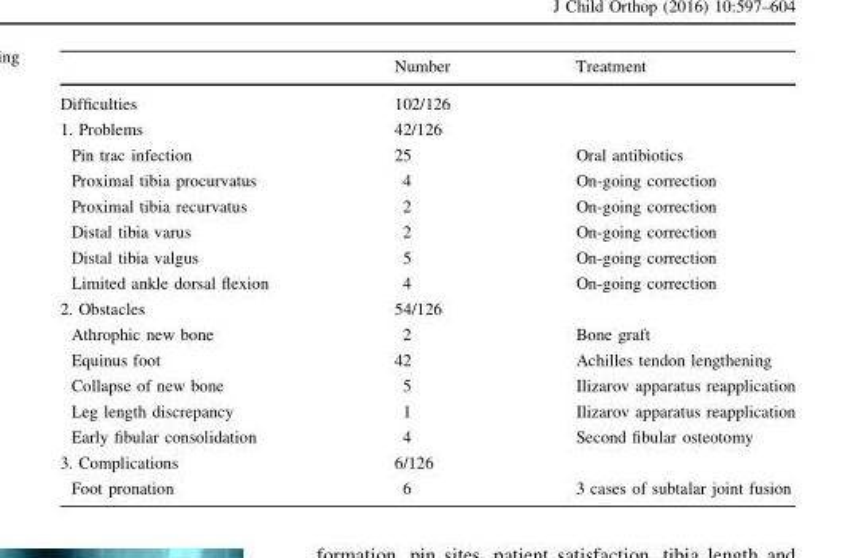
<table><thead><tr><td></td><td>Number</td><td>Treatment</td></tr></thead><tbody><tr><td>Difficulties</td><td>102/126</td><td></td></tr><tr><td>1. Problems</td><td>42/126</td><td></td></tr><tr><td>Pin trac infection</td><td>25</td><td>Oral antibiotics</td></tr><tr><td>Proximal tibia procurvatus</td><td>4</td><td>On-going correction</td></tr><tr><td>Proximal tibia recurvatus</td><td>2</td><td>On-going correction</td></tr><tr><td>Distal tibia varus</td><td>2</td><td>On-going correction</td></tr><tr><td>Distal tibia valgus</td><td>5</td><td>On-going correction</td></tr><tr><td>Limited ankle dorsal flexion</td><td>4</td><td>On-going correction</td></tr><tr><td>2. Obstacles</td><td>54/126</td><td></td></tr><tr><td>Athrophic new bone</td><td>2</td><td>Bone graft</td></tr><tr><td>Equinus foot</td><td>42</td><td>Achilles tendon lengthening</td></tr><tr><td>Collapse of new bone</td><td>5</td><td>Ilizarov apparatus reapplication</td></tr><tr><td>Leg length discrepancy</td><td>1</td><td>Ilizarov apparatus reapplication</td></tr><tr><td>Early fibular consolidation</td><td>4</td><td>Second fibular osteotomy</td></tr><tr><td>3. Complications</td><td>6/126</td><td></td></tr><tr><td>Foot pronation</td><td>6</td><td>3 cases of subtalar joint fusion</td></tr></tbody></table>